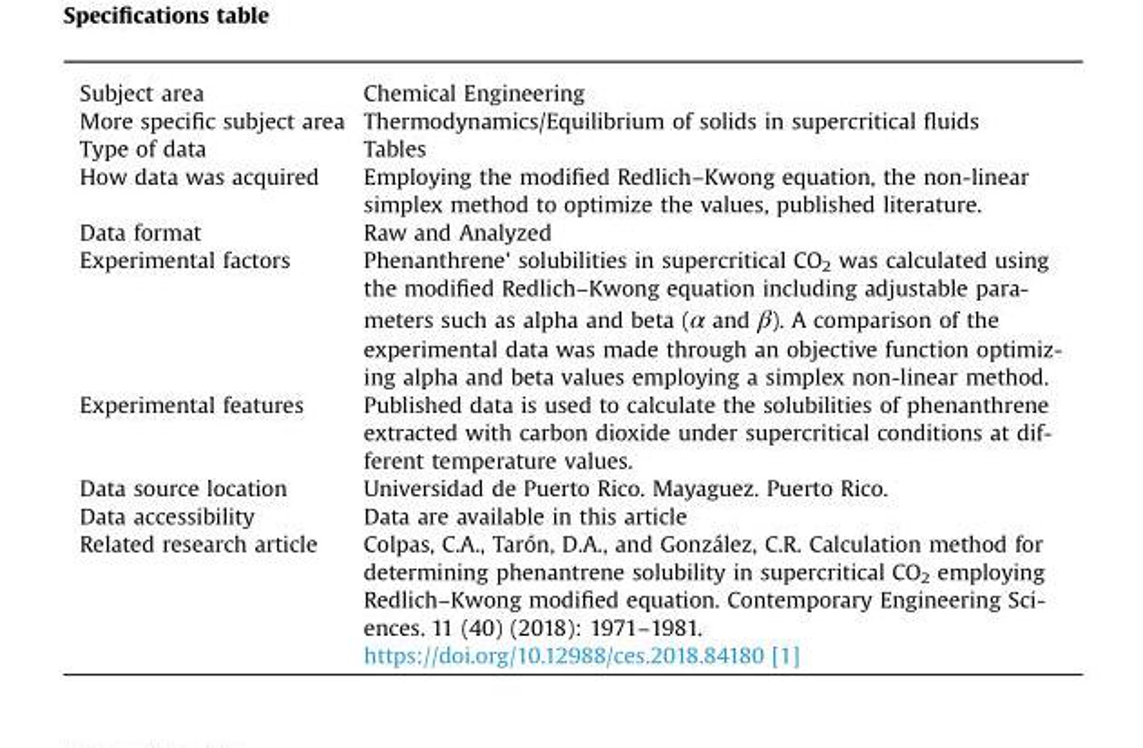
<table><tbody><tr><td>Subject area</td><td>Chemical Engineering</td></tr><tr><td>More specific subject area</td><td>Thermodynamics/Equilibrium of solids in supercritical fluids</td></tr><tr><td>Type of data</td><td>Tables</td></tr><tr><td>How data was acquired</td><td>Employing the modified Redlich–Kwong equation, the non-linear simplex method to optimize the values, published literature.</td></tr><tr><td>Data format</td><td>Raw and Analyzed</td></tr><tr><td>Experimental factors</td><td>Phenanthrene’ solubilities in supercritical CO2 was calculated using the modified Redlich–Kwong equation including adjustable para- meters such as alpha and beta (α and β). A comparison of the experimental data was made through an objective function optimiz- ing alpha and beta values employing a simplex non-linear method.</td></tr><tr><td>Experimental features</td><td>Published data is used to calculate the solubilities of phenanthrene extracted with carbon dioxide under supercritical conditions at dif- ferent temperature values.</td></tr><tr><td>Data source location</td><td>Universidad de Puerto Rico. Mayaguez. Puerto Rico.</td></tr><tr><td>Data accessibility</td><td>Data are available in this article</td></tr><tr><td rowspan="2">Related research article</td><td>Colpas, C.A., Tarón, D.A., and González, C.R. Calculation method for determining phenantrene solubility in supercritical CO2 employing Redlich–Kwong modified equation. Contemporary Engineering Sci- ences. 11 (40) (2018): 1971–1981.</td></tr><tr><td>https://doi.org/10.12988/ces.2018.84180 [1]</td></tr></tbody></table>